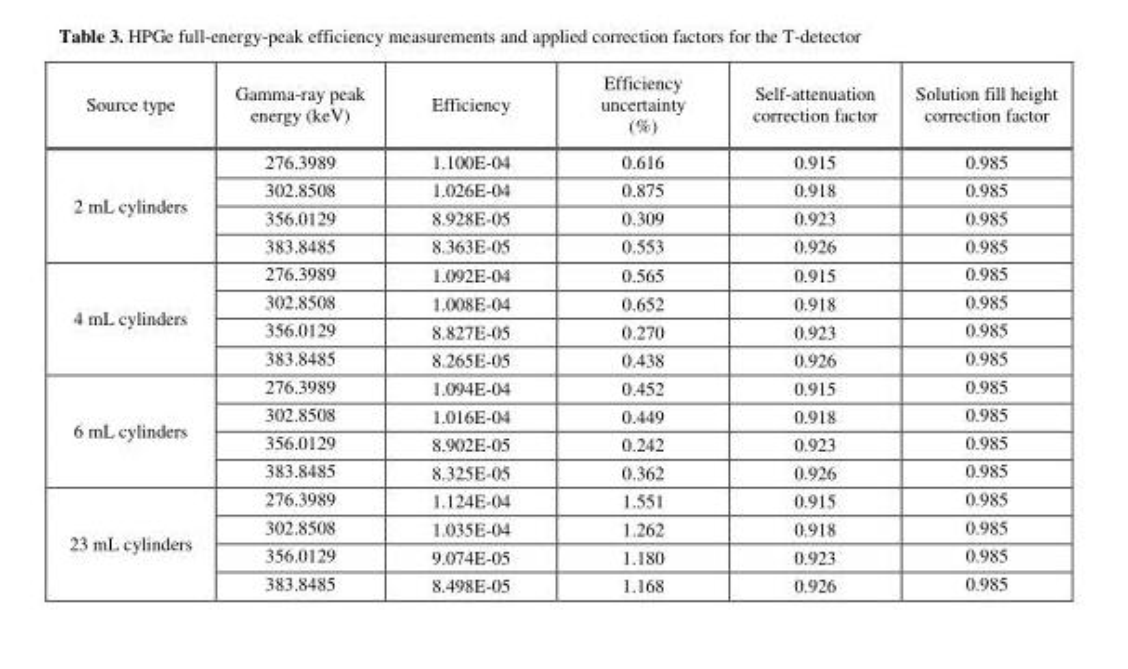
<table><thead><tr><td>Source type</td><td>Gamma-ray peak energy (keV)</td><td>Efficiency</td><td>Efficiency uncertainty (%)</td><td>Self-attenuation correction factor</td><td>Solution fill height correction factor</td></tr></thead><tbody><tr><td rowspan="4">2 mL cylinders</td><td>276.3989</td><td>1.100E-04</td><td>0.616</td><td>0.915</td><td>0.985</td></tr><tr><td>302.8508</td><td>1.026E-04</td><td>0.875</td><td>0.918</td><td>0.985</td></tr><tr><td>356.0129</td><td>8.928E-05</td><td>0.309</td><td>0.923</td><td>0.985</td></tr><tr><td>383.8485</td><td>8.363E-05</td><td>0.553</td><td>0.926</td><td>0.985</td></tr><tr><td rowspan="4">4 mL cylinders</td><td>276.3989</td><td>1.092E-04</td><td>0.565</td><td>0.915</td><td>0.985</td></tr><tr><td>302.8508</td><td>1.008E-04</td><td>0.652</td><td>0.918</td><td>0.985</td></tr><tr><td>356.0129</td><td>8.827E-05</td><td>0.270</td><td>0.923</td><td>0.985</td></tr><tr><td>383.8485</td><td>8.265E-05</td><td>0.438</td><td>0.926</td><td>0.985</td></tr><tr><td rowspan="4">6 mL cylinders</td><td>276.3989</td><td>1.094E-04</td><td>0.452</td><td>0.915</td><td>0.985</td></tr><tr><td>302.8508</td><td>1.016E-04</td><td>0.449</td><td>0.918</td><td>0.985</td></tr><tr><td>356.0129</td><td>8.902E-05</td><td>0.242</td><td>0.923</td><td>0.985</td></tr><tr><td>383.8485</td><td>8.325E-05</td><td>0.362</td><td>0.926</td><td>0.985</td></tr><tr><td rowspan="4">23 mL cylinders</td><td>276.3989</td><td>1.124E-04</td><td>1.551</td><td>0.915</td><td>0.985</td></tr><tr><td>302.8508</td><td>1.035E-04</td><td>1.262</td><td>0.918</td><td>0.985</td></tr><tr><td>356.0129</td><td>9.074E-05</td><td>1.180</td><td>0.923</td><td>0.985</td></tr><tr><td>383.8485</td><td>8.498E-05</td><td>1.168</td><td>0.926</td><td>0.985</td></tr></tbody></table>